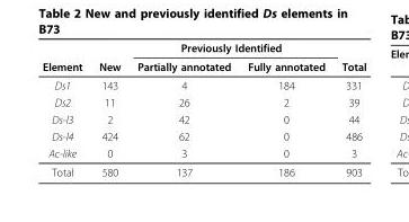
<table><thead><tr><td rowspan="2">Element</td><td rowspan="2">New</td><td colspan="2">Previously Identified</td><td rowspan="2">Total</td></tr><tr><td>Partially annotated</td><td>Fully annotated</td></tr></thead><tbody><tr><td>Ds1</td><td>143</td><td>4</td><td>184</td><td>331</td></tr><tr><td>Ds2</td><td>11</td><td>26</td><td>2</td><td>39</td></tr><tr><td>Ds-l3</td><td>2</td><td>42</td><td>0</td><td>44</td></tr><tr><td>Ds-l4</td><td>424</td><td>62</td><td>0</td><td>486</td></tr><tr><td>Ac-like</td><td>0</td><td>3</td><td>0</td><td>3</td></tr><tr><td>Total</td><td>580</td><td>137</td><td>186</td><td>903</td></tr></tbody></table>